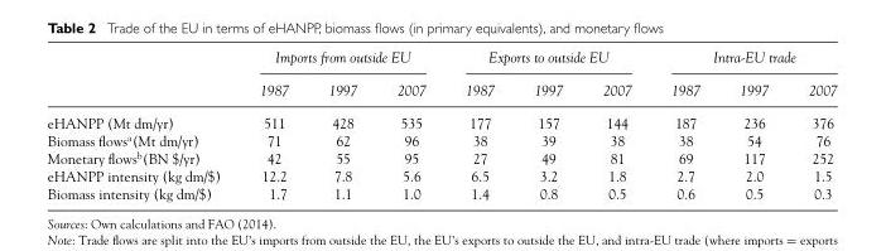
<table><thead><tr><td rowspan="2"></td><td colspan="3">Imports from outside EU</td><td colspan="3">Exports to outside EU</td><td colspan="3">Intra-EU trade</td></tr><tr><td>1987</td><td>1997</td><td>2007</td><td>1987</td><td>1997</td><td>2007</td><td>1987</td><td>1997</td><td>2007</td></tr></thead><tbody><tr><td>eHANPP (Mt dm/yr)</td><td>511</td><td>428</td><td>535</td><td>177</td><td>157</td><td>144</td><td>187</td><td>236</td><td>376</td></tr><tr><td>Biomass flows<sup>a</sup>(Mt dm/yr)</td><td>71</td><td>62</td><td>96</td><td>38</td><td>39</td><td>38</td><td>38</td><td>54</td><td>76</td></tr><tr><td>Monetary flows<sup>b</sup>(BN $/yr)</td><td>42</td><td>55</td><td>95</td><td>27</td><td>49</td><td>81</td><td>69</td><td>117</td><td>252</td></tr><tr><td>eHANPP intensity (kg dm/$)</td><td>12.2</td><td>7.8</td><td>5.6</td><td>6.5</td><td>3.2</td><td>1.8</td><td>2.7</td><td>2.0</td><td>1.5</td></tr><tr><td>Biomass intensity (kg dm/$)</td><td>1.7</td><td>1.1</td><td>1.0</td><td>1.4</td><td>0.8</td><td>0.5</td><td>0.6</td><td>0.5</td><td>0.3</td></tr></tbody></table>